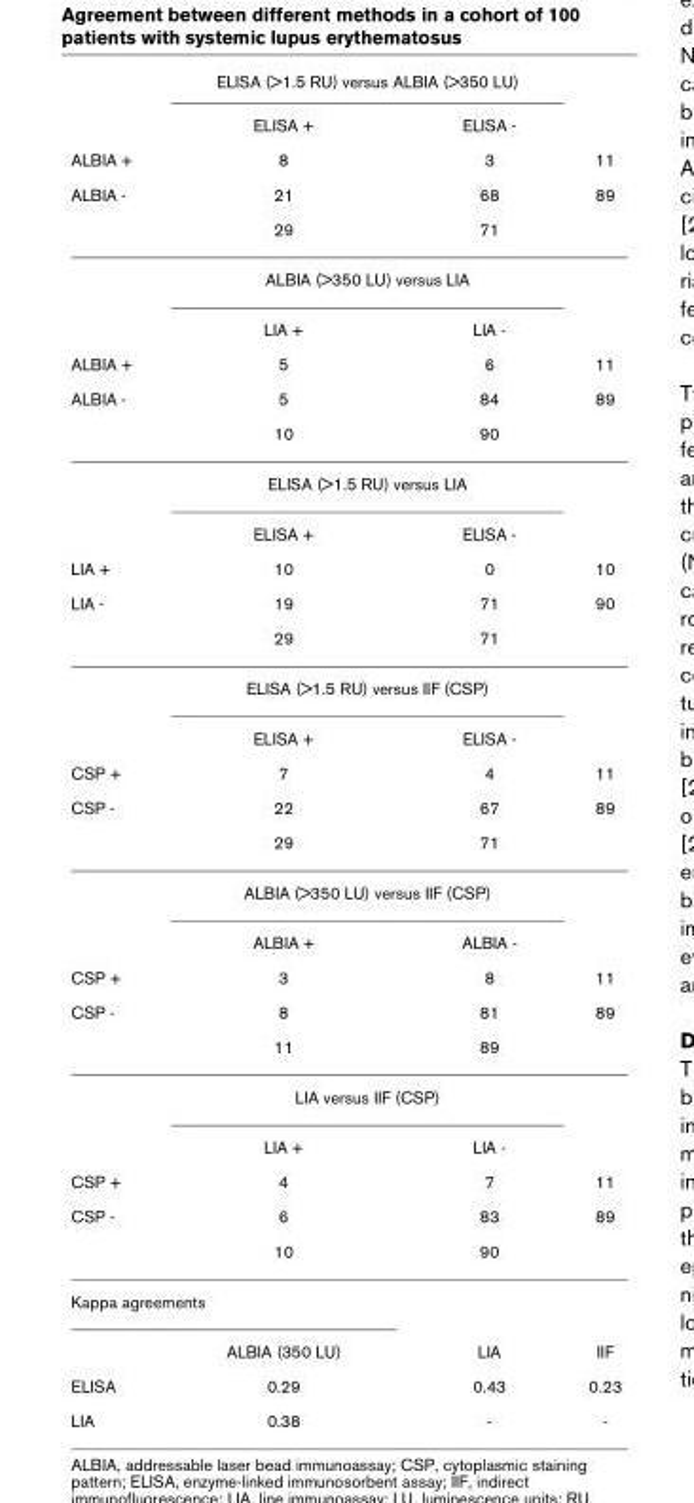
<table><thead><tr><td rowspan="5">ALBIA + ALBIA -</td><td colspan="2">ELISA (&gt;1.5 RU) versus ALBIA (&gt;350 LU)</td><td rowspan="5">11 89</td></tr><tr><td rowspan="4">ELISA + 8 21 29</td><td rowspan="4">ELISA - 3 68 71</td></tr><tr></tr><tr></tr><tr></tr></thead><tbody><tr><td></td><td colspan="2">ALBIA (&gt;350 LU) versus LIA</td><td></td></tr><tr><td></td><td>LIA +</td><td>LIA -</td><td></td></tr><tr><td>ALBIA +</td><td>5</td><td>6</td><td>11</td></tr><tr><td rowspan="4">ALBIA -</td><td>5</td><td>84</td><td>89</td></tr><tr><td>10</td><td>90</td><td></td></tr><tr><td colspan="2">ELISA (&gt;1.5 RU) versus LIA</td><td></td></tr><tr><td>ELISA +</td><td>ELISA -</td><td></td></tr><tr><td>LIA +</td><td>10</td><td>0</td><td>10</td></tr><tr><td rowspan="4">LIA -</td><td>19</td><td>71</td><td>90</td></tr><tr><td>29</td><td>71</td><td></td></tr><tr><td colspan="2">ELISA (&gt;1.5 RU) versus IIF (CSP)</td><td></td></tr><tr><td>ELISA +</td><td>ELISA -</td><td></td></tr><tr><td>CSP +</td><td>7</td><td>4</td><td>11</td></tr><tr><td rowspan="4">CSP -</td><td>22</td><td>67</td><td>89</td></tr><tr><td>29</td><td>71</td><td></td></tr><tr><td colspan="2">ALBIA (&gt;350 LU) versus IIF (CSP)</td><td></td></tr><tr><td>ALBIA +</td><td>ALBIA -</td><td></td></tr><tr><td>CSP +</td><td>3</td><td>8</td><td>11</td></tr><tr><td rowspan="4">CSP -</td><td>8</td><td>81</td><td>89</td></tr><tr><td>11</td><td>89</td><td></td></tr><tr><td colspan="2">LIA versus IIF (CSP)</td><td></td></tr><tr><td>LIA +</td><td>LIA -</td><td></td></tr><tr><td>CSP +</td><td>4</td><td>7</td><td>11</td></tr><tr><td rowspan="2">CSP -</td><td>6</td><td>83</td><td>89</td></tr><tr><td>10</td><td>90</td><td></td></tr><tr><td colspan="4">Kappa agreements</td></tr><tr><td></td><td>ALBIA (350 LU)</td><td>LIA</td><td>IIF</td></tr><tr><td>ELISA</td><td>0.29</td><td>0.43</td><td>0.23</td></tr><tr><td>LIA</td><td>0.38</td><td>-</td><td>-</td></tr></tbody></table>